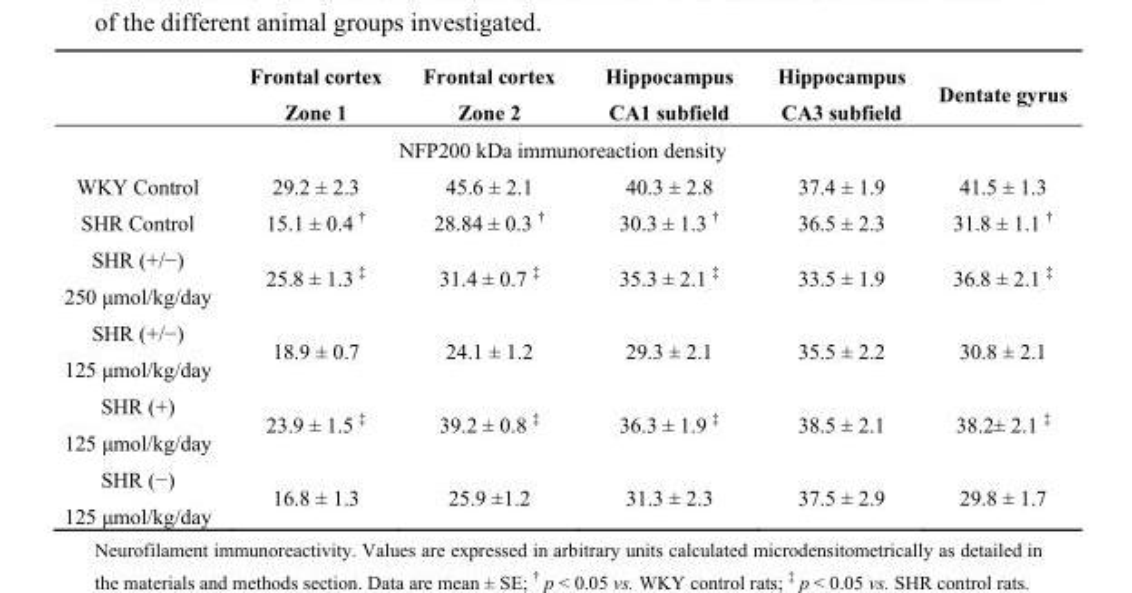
<table><thead><tr><td></td><td>Frontal cortex Zone 1</td><td>Frontal cortex Zone 2</td><td>Hippocampus CA1 subfield</td><td>Hippocampus CA3 subfield</td><td>Dentate gyrus</td></tr><tr><td colspan="6">NFP200 kDa immunoreaction density</td></tr></thead><tbody><tr><td>WKY Control</td><td>29.2 ± 2.3</td><td>45.6 ± 2.1</td><td>40.3 ± 2.8</td><td>37.4 ± 1.9</td><td>41.5 ± 1.3</td></tr><tr><td>SHR Control</td><td>15.1 ± 0.4 †</td><td>28.84 ± 0.3 †</td><td>30.3 ± 1.3 †</td><td>36.5 ± 2.3</td><td>31.8 ± 1.1 †</td></tr><tr><td>SHR (+/−) 250 μmol/kg/day</td><td>25.8 ± 1.3 ‡</td><td>31.4 ± 0.7 ‡</td><td>35.3 ± 2.1 ‡</td><td>33.5 ± 1.9</td><td>36.8 ± 2.1 ‡</td></tr><tr><td>SHR (+/−) 125 μmol/kg/day</td><td>18.9 ± 0.7</td><td>24.1 ± 1.2</td><td>29.3 ± 2.1</td><td>35.5 ± 2.2</td><td>30.8 ± 2.1</td></tr><tr><td>SHR (+) 125 μmol/kg/day</td><td>23.9 ± 1.5 ‡</td><td>39.2 ± 0.8 ‡</td><td>36.3 ± 1.9 ‡</td><td>38.5 ± 2.1</td><td>38.2± 2.1 ‡</td></tr><tr><td>SHR (−) 125 μmol/kg/day</td><td>16.8 ± 1.3</td><td>25.9 ±1.2</td><td>31.3 ± 2.3</td><td>37.5 ± 2.9</td><td>29.8 ± 1.7</td></tr></tbody></table>